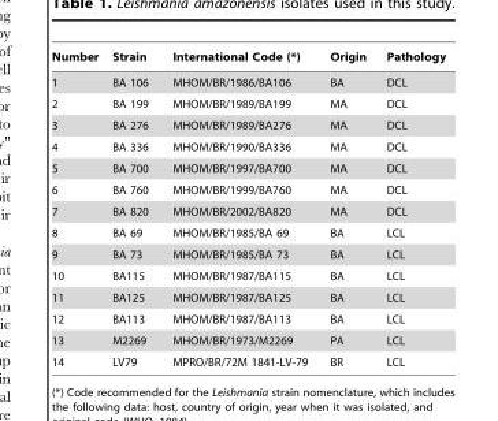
<table><thead><tr><td>Number</td><td>Strain</td><td>International Code (*)</td><td>Origin</td><td>Pathology</td></tr></thead><tbody><tr><td>1</td><td>BA 106</td><td>MHOM/BR/1986/BA106</td><td>BA</td><td>DCL</td></tr><tr><td>2</td><td>BA 199</td><td>MHOM/BR/1989/BA199</td><td>MA</td><td>DCL</td></tr><tr><td>3</td><td>BA 276</td><td>MHOM/BR/1989/BA276</td><td>MA</td><td>DCL</td></tr><tr><td>4</td><td>BA 336</td><td>MHOM/BR/1990/BA336</td><td>MA</td><td>DCL</td></tr><tr><td>5</td><td>BA 700</td><td>MHOM/BR/1997/BA700</td><td>MA</td><td>DCL</td></tr><tr><td>6</td><td>BA 760</td><td>MHOM/BR/1999/BA760</td><td>MA</td><td>DCL</td></tr><tr><td>7</td><td>BA 820</td><td>MHOM/BR/2002/BA820</td><td>MA</td><td>DCL</td></tr><tr><td>8</td><td>BA 69</td><td>MHOM/BR/1985/BA 69</td><td>BA</td><td>LCL</td></tr><tr><td>9</td><td>BA 73</td><td>MHOM/BR/1985/BA 73</td><td>BA</td><td>LCL</td></tr><tr><td>10</td><td>BA115</td><td>MHOM/BR/1987/BA115</td><td>BA</td><td>LCL</td></tr><tr><td>11</td><td>BA125</td><td>MHOM/BR/1987/BA125</td><td>BA</td><td>LCL</td></tr><tr><td>12</td><td>BA113</td><td>MHOM/BR/1987/BA113</td><td>BA</td><td>LCL</td></tr><tr><td>13</td><td>M2269</td><td>MHOM/BR/1973/M2269</td><td>PA</td><td>LCL</td></tr><tr><td>14</td><td>LV79</td><td>MPRO/BR/72M 1841-LV-79</td><td>BR</td><td>LCL</td></tr></tbody></table>